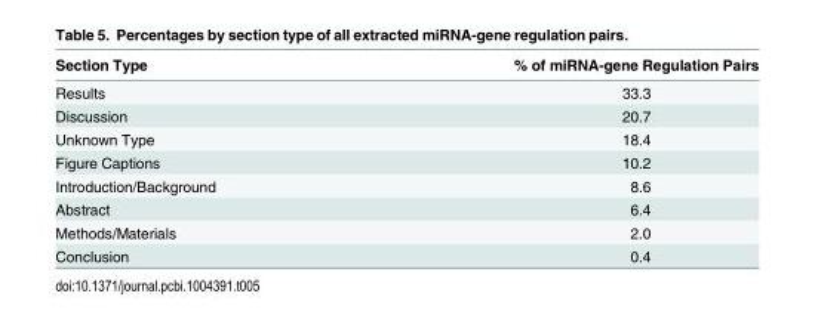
<table><thead><tr><td>Section Type</td><td>% of miRNA-gene Regulation Pairs</td></tr></thead><tbody><tr><td>Results</td><td>33.3</td></tr><tr><td>Discussion</td><td>20.7</td></tr><tr><td>Unknown Type</td><td>18.4</td></tr><tr><td>Figure Captions</td><td>10.2</td></tr><tr><td>Introduction/Background</td><td>8.6</td></tr><tr><td>Abstract</td><td>6.4</td></tr><tr><td>Methods/Materials</td><td>2.0</td></tr><tr><td>Conclusion</td><td>0.4</td></tr></tbody></table>